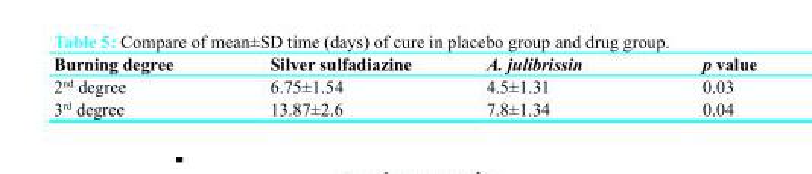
<table><thead><tr><td>Burning degree</td><td>Silver sulfadiazine</td><td>A. julibrissin</td><td>p value</td></tr></thead><tbody><tr><td>2<sup>nd</sup> degree</td><td>6.75±1.54</td><td>4.5±1.31</td><td>0.03</td></tr><tr><td>3<sup>rd</sup> degree</td><td>13.87±2.6</td><td>7.8±1.34</td><td>0.04</td></tr></tbody></table>